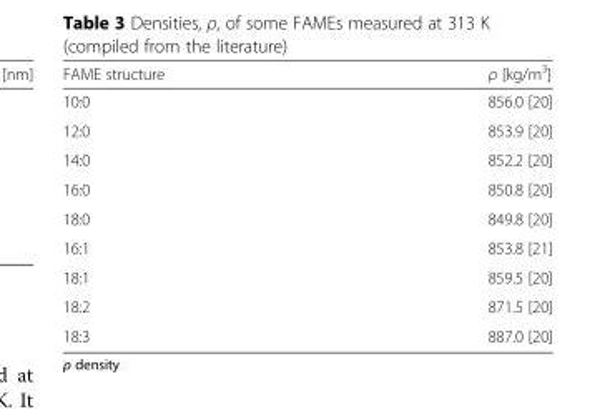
<table><thead><tr><td>FAME structure</td><td>ρ [kg/m<sup>3</sup>]</td></tr></thead><tbody><tr><td>10:0</td><td>856.0 [20]</td></tr><tr><td>12:0</td><td>853.9 [20]</td></tr><tr><td>14:0</td><td>852.2 [20]</td></tr><tr><td>16:0</td><td>850.8 [20]</td></tr><tr><td>18:0</td><td>849.8 [20]</td></tr><tr><td>16:1</td><td>853.8 [21]</td></tr><tr><td>18:1</td><td>859.5 [20]</td></tr><tr><td>18:2</td><td>871.5 [20]</td></tr><tr><td>18:3</td><td>887.0 [20]</td></tr></tbody></table>